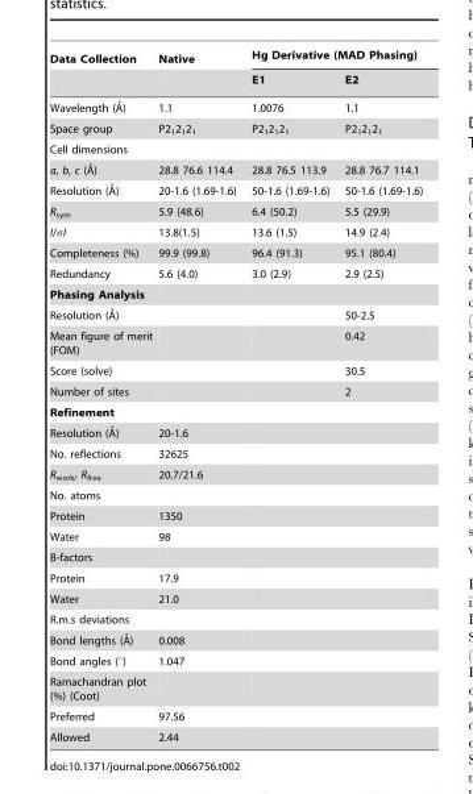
<table><thead><tr><td rowspan="2">Data Collection</td><td rowspan="2">Native</td><td colspan="2">Hg Derivative (MAD Phasing)</td></tr><tr><td>E1</td><td>E2</td></tr></thead><tbody><tr><td>Wavelength (A˚)</td><td>1.1</td><td>1.0076</td><td>1.1</td></tr><tr><td>Space group</td><td>P2<sub>1</sub>2<sub>1</sub>2<sub>1</sub></td><td>P2<sub>1</sub>2<sub>1</sub>2<sub>1</sub></td><td>P2<sub>1</sub>2<sub>1</sub>2<sub>1</sub></td></tr><tr><td colspan="4">Cell dimensions</td></tr><tr><td>a, b, c (A˚)</td><td>28.8 76.6 114.4</td><td>28.8 76.5 113.9</td><td>28.8 76.7 114.1</td></tr><tr><td>Resolution (A˚)</td><td>20-1.6 (1.69-1.6)</td><td>50-1.6 (1.69-1.6)</td><td>50-1.6 (1.69-1.6)</td></tr><tr><td>R<sub>sym</sub></td><td>5.9 (48.6)</td><td>6.4 (50.2)</td><td>5.5 (29.9)</td></tr><tr><td>I/sI</td><td>13.8(1.5)</td><td>13.6 (1.5)</td><td>14.9 (2.4)</td></tr><tr><td>Completeness (%)</td><td>99.9 (99.8)</td><td>96.4 (91.3)</td><td>95.1 (80.4)</td></tr><tr><td>Redundancy</td><td>5.6 (4.0)</td><td>3.0 (2.9)</td><td>2.9 (2.5)</td></tr><tr><td colspan="4">Phasing Analysis</td></tr><tr><td>Resolution (A˚)</td><td></td><td></td><td>50-2.5</td></tr><tr><td>Mean figure of merit (FOM)</td><td></td><td></td><td>0.42</td></tr><tr><td>Score (solve)</td><td></td><td></td><td>30.5</td></tr><tr><td>Number of sites</td><td></td><td></td><td>2</td></tr><tr><td colspan="4">Refinement</td></tr><tr><td>Resolution (A˚)</td><td>20-1.6</td><td></td><td></td></tr><tr><td>No. reflections</td><td>32625</td><td></td><td></td></tr><tr><td>R<sub>work/</sub> R<sub>free</sub></td><td>20.7/21.6</td><td></td><td></td></tr><tr><td colspan="4">No. atoms</td></tr><tr><td>Protein</td><td>1350</td><td></td><td></td></tr><tr><td>Water</td><td>98</td><td></td><td></td></tr><tr><td colspan="4">B-factors</td></tr><tr><td>Protein</td><td>17.9</td><td></td><td></td></tr><tr><td>Water</td><td>21.0</td><td></td><td></td></tr><tr><td colspan="4">R.m.s deviations</td></tr><tr><td>Bond lengths (A˚)</td><td>0.008</td><td></td><td></td></tr><tr><td>Bond angles (°)</td><td>1.047</td><td></td><td></td></tr><tr><td colspan="4">Ramachandran plot (%) (Coot)</td></tr><tr><td>Preferred</td><td>97.56</td><td></td><td></td></tr><tr><td>Allowed</td><td>2.44</td><td></td><td></td></tr></tbody></table>